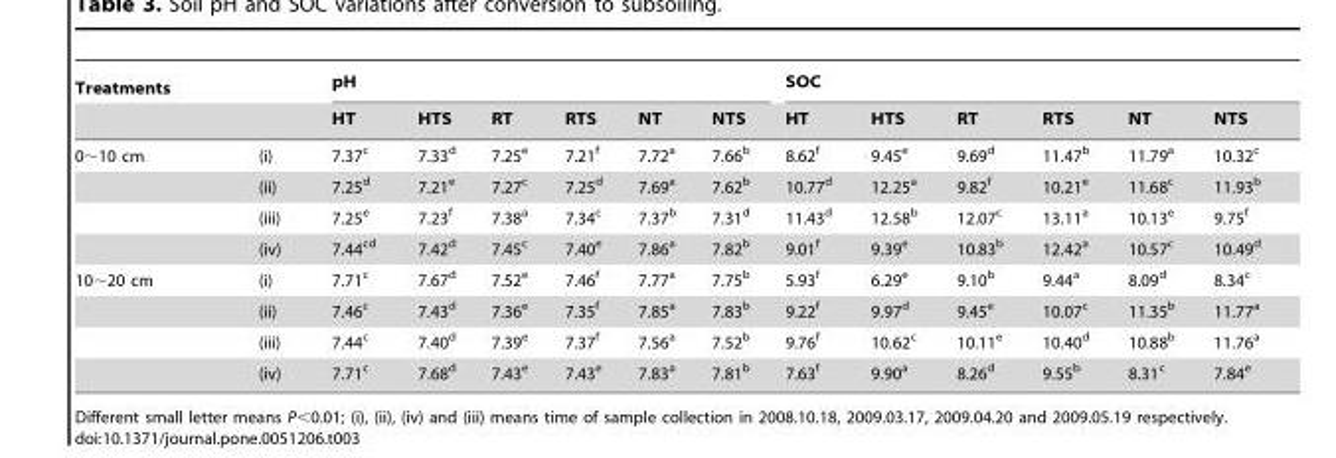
<table><thead><tr><td rowspan="2">Treatments</td><td rowspan="2"></td><td colspan="6">pH</td><td colspan="6">SOC</td></tr><tr><td>HT</td><td>HTS</td><td>RT</td><td>RTS</td><td>NT</td><td>NTS</td><td>HT</td><td>HTS</td><td>RT</td><td>RTS</td><td>NT</td><td>NTS</td></tr></thead><tbody><tr><td rowspan="4">0∼10 cm</td><td>(i)</td><td>7.37<sup>c</sup></td><td>7.33<sup>d</sup></td><td>7.25<sup>e</sup></td><td>7.21<sup>f</sup></td><td>7.72<sup>a</sup></td><td>7.66<sup>b</sup></td><td>8.62<sup>f</sup></td><td>9.45<sup>e</sup></td><td>9.69<sup>d</sup></td><td>11.47<sup>b</sup></td><td>11.79<sup>a</sup></td><td>10.32<sup>c</sup></td></tr><tr><td>(ii)</td><td>7.25<sup>d</sup></td><td>7.21<sup>e</sup></td><td>7.27<sup>c</sup></td><td>7.25<sup>d</sup></td><td>7.69<sup>a</sup></td><td>7.62<sup>b</sup></td><td>10.77<sup>d</sup></td><td>12.25<sup>a</sup></td><td>9.82<sup>f</sup></td><td>10.21<sup>e</sup></td><td>11.68<sup>c</sup></td><td>11.93<sup>b</sup></td></tr><tr><td>(iii)</td><td>7.25<sup>e</sup></td><td>7.23<sup>f</sup></td><td>7.38<sup>a</sup></td><td>7.34<sup>c</sup></td><td>7.37<sup>b</sup></td><td>7.31<sup>d</sup></td><td>11.43<sup>d</sup></td><td>12.58<sup>b</sup></td><td>12.07<sup>c</sup></td><td>13.11<sup>a</sup></td><td>10.13<sup>e</sup></td><td>9.75<sup>f</sup></td></tr><tr><td>(iv)</td><td>7.44<sup>cd</sup></td><td>7.42<sup>d</sup></td><td>7.45<sup>c</sup></td><td>7.40<sup>e</sup></td><td>7.86<sup>a</sup></td><td>7.82<sup>b</sup></td><td>9.01<sup>f</sup></td><td>9.39<sup>e</sup></td><td>10.83<sup>b</sup></td><td>12.42<sup>a</sup></td><td>10.57<sup>c</sup></td><td>10.49<sup>d</sup></td></tr><tr><td rowspan="4">10∼20 cm</td><td>(i)</td><td>7.71<sup>c</sup></td><td>7.67<sup>d</sup></td><td>7.52<sup>e</sup></td><td>7.46<sup>f</sup></td><td>7.77<sup>a</sup></td><td>7.75<sup>b</sup></td><td>5.93<sup>f</sup></td><td>6.29<sup>e</sup></td><td>9.10<sup>b</sup></td><td>9.44<sup>a</sup></td><td>8.09<sup>d</sup></td><td>8.34<sup>c</sup></td></tr><tr><td>(ii)</td><td>7.46<sup>c</sup></td><td>7.43<sup>d</sup></td><td>7.36<sup>e</sup></td><td>7.35<sup>f</sup></td><td>7.85<sup>a</sup></td><td>7.83<sup>b</sup></td><td>9.22<sup>f</sup></td><td>9.97<sup>d</sup></td><td>9.45<sup>e</sup></td><td>10.07<sup>c</sup></td><td>11.35<sup>b</sup></td><td>11.77<sup>a</sup></td></tr><tr><td>(iii)</td><td>7.44<sup>c</sup></td><td>7.40<sup>d</sup></td><td>7.39<sup>e</sup></td><td>7.37<sup>f</sup></td><td>7.56<sup>a</sup></td><td>7.52<sup>b</sup></td><td>9.76<sup>f</sup></td><td>10.62<sup>c</sup></td><td>10.11<sup>e</sup></td><td>10.40<sup>d</sup></td><td>10.88<sup>b</sup></td><td>11.76<sup>a</sup></td></tr><tr><td>(iv)</td><td>7.71<sup>c</sup></td><td>7.68<sup>d</sup></td><td>7.43<sup>e</sup></td><td>7.43<sup>e</sup></td><td>7.83<sup>a</sup></td><td>7.81<sup>b</sup></td><td>7.63<sup>f</sup></td><td>9.90<sup>a</sup></td><td>8.26<sup>d</sup></td><td>9.55<sup>b</sup></td><td>8.31<sup>c</sup></td><td>7.84<sup>e</sup></td></tr></tbody></table>